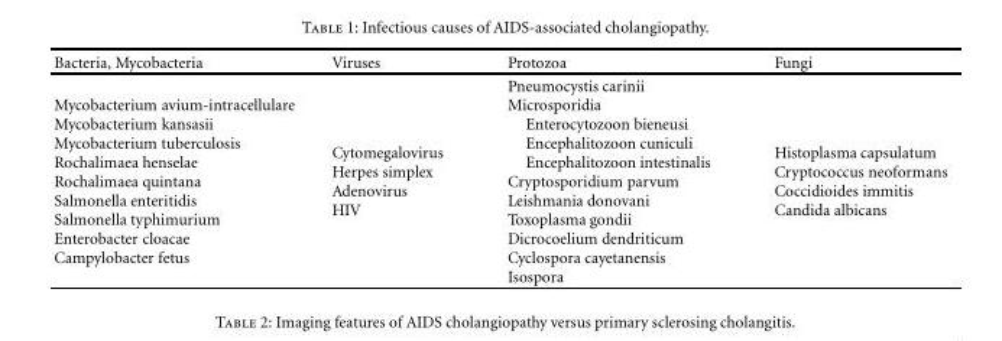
<table><thead><tr><td>Bacteria, Mycobacteria</td><td>Viruses</td><td>Protozoa</td><td>Fungi</td></tr></thead><tbody><tr><td>Mycobacterium avium-intracellulare Mycobacterium kansasii Mycobacterium tuberculosis Rochalimaea henselae Rochalimaea quintana Salmonella enteritidis Salmonella typhimurium Enterobacter cloacae Campylobacter fetus</td><td>Cytomegalovirus Herpes simplex Adenovirus HIV</td><td>Pneumocystis carinii Microsporidia Enterocytozoon bieneusi Encephalitozoon cuniculi Encephalitozoon intestinalis Cryptosporidium parvum Leishmania donovani Toxoplasma gondii Dicrocoelium dendriticum Cyclospora cayetanensis Isospora</td><td>Histoplasma capsulatum Cryptococcus neoformans Coccidioides immitis Candida albicans</td></tr></tbody></table>